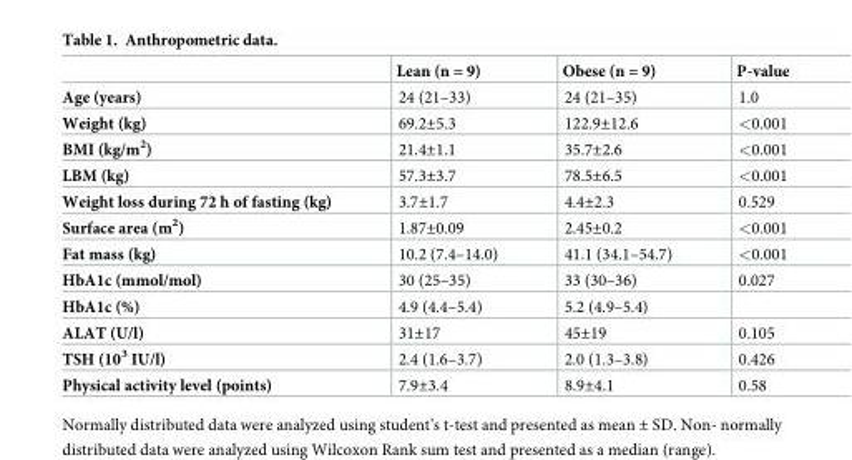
<table><thead><tr><td></td><td>Lean (n = 9)</td><td>Obese (n = 9)</td><td>P-value</td></tr></thead><tbody><tr><td>Age (years)</td><td>24 (21–33)</td><td>24 (21–35)</td><td>1.0</td></tr><tr><td>Weight (kg)</td><td>69.2±5.3</td><td>122.9±12.6</td><td>&lt;0.001</td></tr><tr><td>BMI (kg/m<sup>2</sup>)</td><td>21.4±1.1</td><td>35.7±2.6</td><td>&lt;0.001</td></tr><tr><td>LBM (kg)</td><td>57.3±3.7</td><td>78.5±6.5</td><td>&lt;0.001</td></tr><tr><td>Weight loss during 72 h of fasting (kg)</td><td>3.7±1.7</td><td>4.4±2.3</td><td>0.529</td></tr><tr><td>Surface area (m<sup>2</sup>)</td><td>1.87±0.09</td><td>2.45±0.2</td><td>&lt;0.001</td></tr><tr><td>Fat mass (kg)</td><td>10.2 (7.4–14.0)</td><td>41.1 (34.1–54.7)</td><td>&lt;0.001</td></tr><tr><td>HbA1c (mmol/mol)</td><td>30 (25–35)</td><td>33 (30–36)</td><td>0.027</td></tr><tr><td>HbA1c (%)</td><td>4.9 (4.4–5.4)</td><td>5.2 (4.9–5.4)</td><td></td></tr><tr><td>ALAT (U/l)</td><td>31±17</td><td>45±19</td><td>0.105</td></tr><tr><td>TSH (10<sup>3</sup> IU/l)</td><td>2.4 (1.6–3.7)</td><td>2.0 (1.3–3.8)</td><td>0.426</td></tr><tr><td>Physical activity level (points)</td><td>7.9±3.4</td><td>8.9±4.1</td><td>0.58</td></tr></tbody></table>